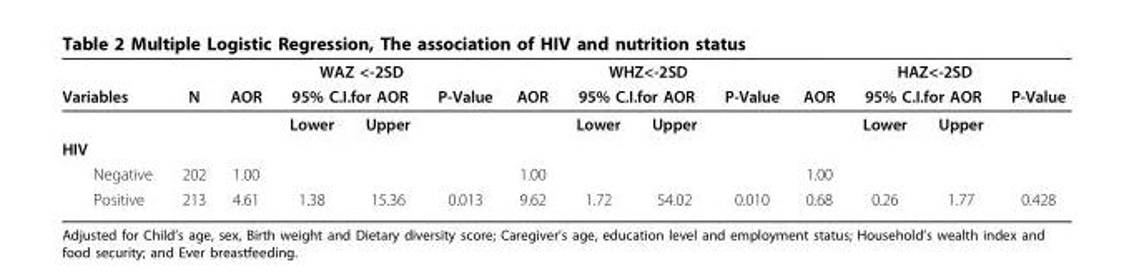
<table><thead><tr><td rowspan="3">Variables</td><td rowspan="3">N</td><td colspan="4">WAZ &lt;-2SD</td><td colspan="4">WHZ&lt;-2SD</td><td colspan="4">HAZ&lt;-2SD</td></tr><tr><td rowspan="2">AOR</td><td colspan="2">95% C.I.for AOR</td><td rowspan="2">P-Value</td><td rowspan="2">AOR</td><td colspan="2">95% C.I.for AOR</td><td rowspan="2">P-Value</td><td rowspan="2">AOR</td><td colspan="2">95% C.I.for AOR</td><td rowspan="2">P-Value</td></tr><tr><td>Lower</td><td>Upper</td><td>Lower</td><td>Upper</td><td>Lower</td><td>Upper</td></tr></thead><tbody><tr><td colspan="14">HIV</td></tr><tr><td>Negative</td><td>202</td><td>1.00</td><td></td><td></td><td></td><td>1.00</td><td></td><td></td><td></td><td>1.00</td><td></td><td></td><td></td></tr><tr><td>Positive</td><td>213</td><td>4.61</td><td>1.38</td><td>15.36</td><td>0.013</td><td>9.62</td><td>1.72</td><td>54.02</td><td>0.010</td><td>0.68</td><td>0.26</td><td>1.77</td><td>0.428</td></tr></tbody></table>